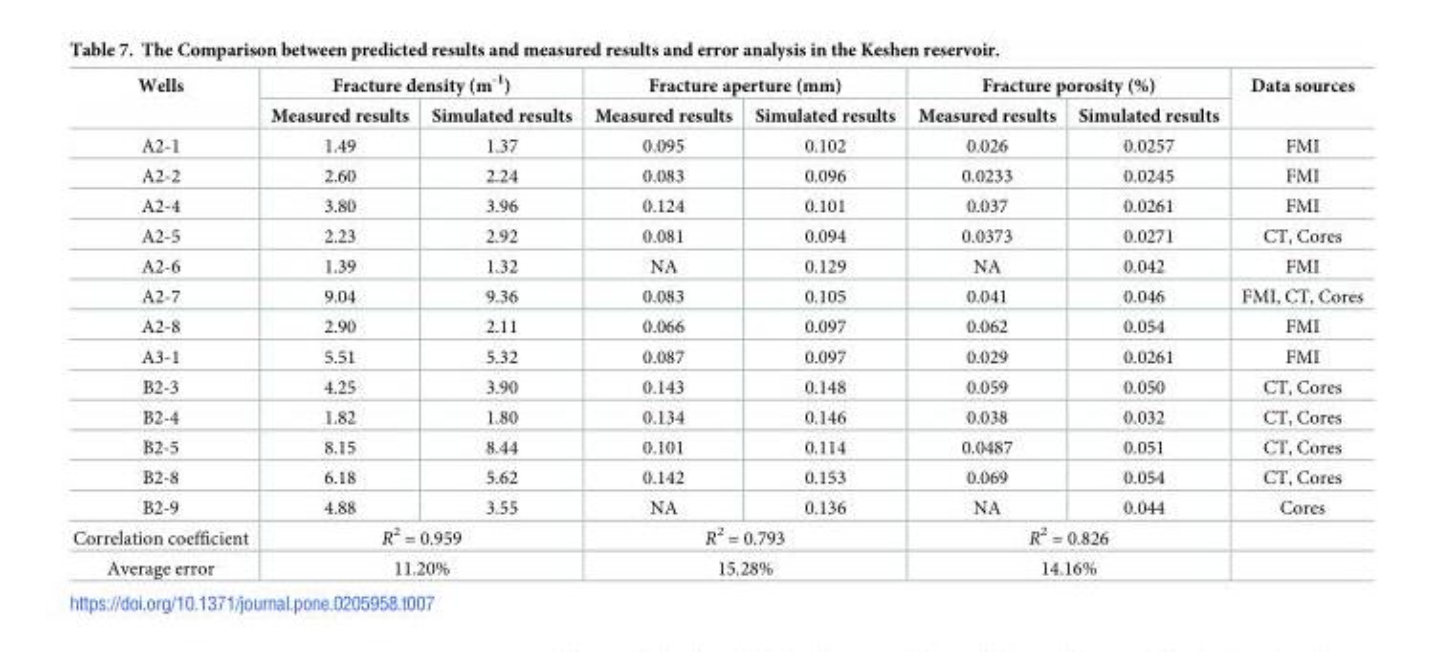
<table><thead><tr><td rowspan="2">Wells</td><td colspan="2">Fracture density (m<sup>-1</sup>)</td><td colspan="2">Fracture aperture (mm)</td><td colspan="2">Fracture porosity (%)</td><td rowspan="2">Data sources</td></tr><tr><td>Measured results</td><td>Simulated results</td><td>Measured results</td><td>Simulated results</td><td>Measured results</td><td>Simulated results</td></tr></thead><tbody><tr><td>A2-1</td><td>1.49</td><td>1.37</td><td>0.095</td><td>0.102</td><td>0.026</td><td>0.0257</td><td>FMI</td></tr><tr><td>A2-2</td><td>2.60</td><td>2.24</td><td>0.083</td><td>0.096</td><td>0.0233</td><td>0.0245</td><td>FMI</td></tr><tr><td>A2-4</td><td>3.80</td><td>3.96</td><td>0.124</td><td>0.101</td><td>0.037</td><td>0.0261</td><td>FMI</td></tr><tr><td>A2-5</td><td>2.23</td><td>2.92</td><td>0.081</td><td>0.094</td><td>0.0373</td><td>0.0271</td><td>CT, Cores</td></tr><tr><td>A2-6</td><td>1.39</td><td>1.32</td><td>NA</td><td>0.129</td><td>NA</td><td>0.042</td><td>FMI</td></tr><tr><td>A2-7</td><td>9.04</td><td>9.36</td><td>0.083</td><td>0.105</td><td>0.041</td><td>0.046</td><td>FMI, CT, Cores</td></tr><tr><td>A2-8</td><td>2.90</td><td>2.11</td><td>0.066</td><td>0.097</td><td>0.062</td><td>0.054</td><td>FMI</td></tr><tr><td>A3-1</td><td>5.51</td><td>5.32</td><td>0.087</td><td>0.097</td><td>0.029</td><td>0.0261</td><td>FMI</td></tr><tr><td>B2-3</td><td>4.25</td><td>3.90</td><td>0.143</td><td>0.148</td><td>0.059</td><td>0.050</td><td>CT, Cores</td></tr><tr><td>B2-4</td><td>1.82</td><td>1.80</td><td>0.134</td><td>0.146</td><td>0.038</td><td>0.032</td><td>CT, Cores</td></tr><tr><td>B2-5</td><td>8.15</td><td>8.44</td><td>0.101</td><td>0.114</td><td>0.0487</td><td>0.051</td><td>CT, Cores</td></tr><tr><td>B2-8</td><td>6.18</td><td>5.62</td><td>0.142</td><td>0.153</td><td>0.069</td><td>0.054</td><td>CT, Cores</td></tr><tr><td>B2-9</td><td>4.88</td><td>3.55</td><td>NA</td><td>0.136</td><td>NA</td><td>0.044</td><td>Cores</td></tr><tr><td>Correlation coefficient</td><td colspan="2">R<sup>2</sup> = 0.959</td><td colspan="2">R<sup>2</sup> = 0.793</td><td colspan="2">R<sup>2</sup> = 0.826</td><td></td></tr><tr><td>Average error</td><td colspan="2">11.20%</td><td colspan="2">15.28%</td><td colspan="2">14.16%</td><td></td></tr></tbody></table>